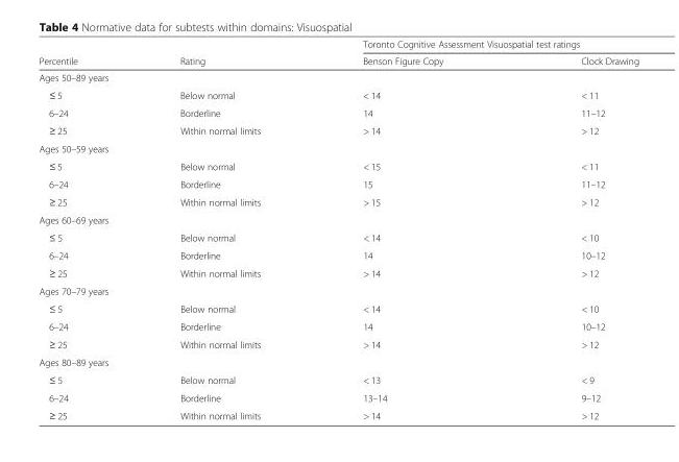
<table><thead><tr><td rowspan="2">Percentile</td><td rowspan="2">Rating</td><td colspan="2">Toronto Cognitive Assessment Visuospatial test ratings</td></tr><tr><td>Benson Figure Copy</td><td>Clock Drawing</td></tr></thead><tbody><tr><td colspan="4">Ages 50–89 years</td></tr><tr><td>≤ 5</td><td>Below normal</td><td>&lt; 14</td><td>&lt; 11</td></tr><tr><td>6–24</td><td>Borderline</td><td>14</td><td>11–12</td></tr><tr><td>≥ 25</td><td>Within normal limits</td><td>&gt; 14</td><td>&gt; 12</td></tr><tr><td colspan="4">Ages 50–59 years</td></tr><tr><td>≤ 5</td><td>Below normal</td><td>&lt; 15</td><td>&lt; 11</td></tr><tr><td>6–24</td><td>Borderline</td><td>15</td><td>11–12</td></tr><tr><td>≥ 25</td><td>Within normal limits</td><td>&gt; 15</td><td>&gt; 12</td></tr><tr><td colspan="4">Ages 60–69 years</td></tr><tr><td>≤ 5</td><td>Below normal</td><td>&lt; 14</td><td>&lt; 10</td></tr><tr><td>6–24</td><td>Borderline</td><td>14</td><td>10–12</td></tr><tr><td>≥ 25</td><td>Within normal limits</td><td>&gt; 14</td><td>&gt; 12</td></tr><tr><td colspan="4">Ages 70–79 years</td></tr><tr><td>≤ 5</td><td>Below normal</td><td>&lt; 14</td><td>&lt; 10</td></tr><tr><td>6–24</td><td>Borderline</td><td>14</td><td>10–12</td></tr><tr><td>≥ 25</td><td>Within normal limits</td><td>&gt; 14</td><td>&gt; 12</td></tr><tr><td colspan="4">Ages 80–89 years</td></tr><tr><td>≤ 5</td><td>Below normal</td><td>&lt; 13</td><td>&lt; 9</td></tr><tr><td>6–24</td><td>Borderline</td><td>13–14</td><td>9–12</td></tr><tr><td>≥ 25</td><td>Within normal limits</td><td>&gt; 14</td><td>&gt; 12</td></tr></tbody></table>